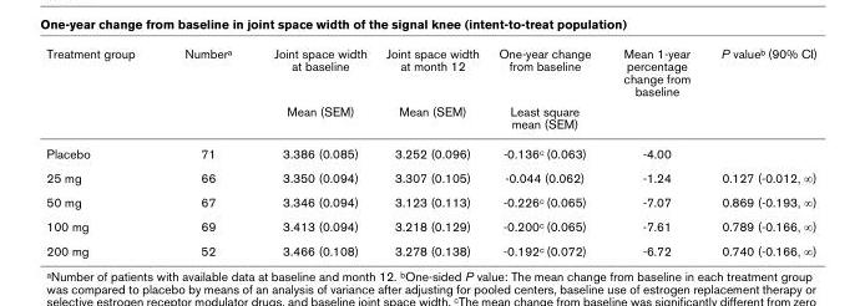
<table><thead><tr><td rowspan="2">Treatment group</td><td rowspan="2">Number<sup>a</sup></td><td rowspan="2">Joint space width at baseline Mean (SEM)</td><td rowspan="2">Joint space width at month 12 Mean (SEM)</td><td rowspan="2">One-year change from baseline Least square mean (SEM)</td><td rowspan="2">Mean 1-year percentage change from baseline</td><td rowspan="2">P value<sup>b</sup> (90% CI)</td></tr><tr></tr></thead><tbody><tr><td>Placebo</td><td>71</td><td>3.386 (0.085)</td><td>3.252 (0.096)</td><td>-0.136<sup>c</sup> (0.063)</td><td>-4.00</td><td></td></tr><tr><td>25 mg</td><td>66</td><td>3.350 (0.094)</td><td>3.307 (0.105)</td><td>-0.044 (0.062)</td><td>-1.24</td><td>0.127 (-0.012, ∞)</td></tr><tr><td>50 mg</td><td>67</td><td>3.346 (0.094)</td><td>3.123 (0.113)</td><td>-0.226<sup>c</sup> (0.065)</td><td>-7.07</td><td>0.869 (-0.193, ∞)</td></tr><tr><td>100 mg</td><td>69</td><td>3.413 (0.094)</td><td>3.218 (0.129)</td><td>-0.200<sup>c</sup> (0.065)</td><td>-7.61</td><td>0.789 (-0.166, ∞)</td></tr><tr><td>200 mg</td><td>52</td><td>3.466 (0.108)</td><td>3.278 (0.138)</td><td>-0.192<sup>c</sup> (0.072)</td><td>-6.72</td><td>0.740 (-0.166, ∞)</td></tr></tbody></table>